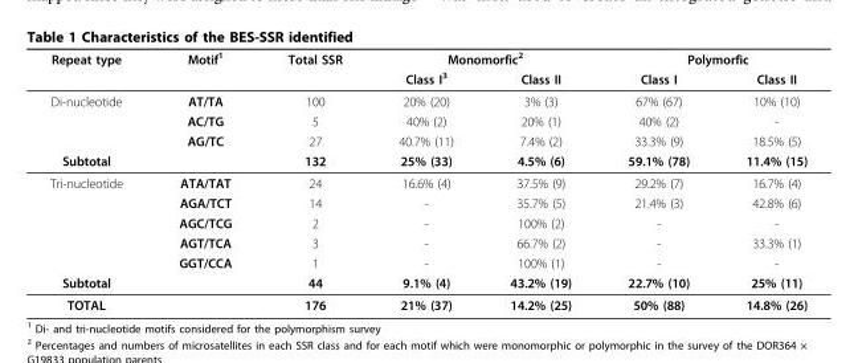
<table><thead><tr><td rowspan="2">Repeat type</td><td rowspan="2">Motif<sup>1</sup></td><td rowspan="2">Total SSR</td><td colspan="2">Monomorfic<sup>2</sup></td><td colspan="2">Polymorfic</td></tr><tr><td>Class I<sup>3</sup></td><td>Class II</td><td>Class I</td><td>Class II</td></tr></thead><tbody><tr><td rowspan="3">Di-nucleotide</td><td>AT/TA</td><td>100</td><td>20% (20)</td><td>3% (3)</td><td>67% (67)</td><td>10% (10)</td></tr><tr><td>AC/TG</td><td>5</td><td>40% (2)</td><td>20% (1)</td><td>40% (2)</td><td>-</td></tr><tr><td>AG/TC</td><td>27</td><td>40.7% (11)</td><td>7.4% (2)</td><td>33.3% (9)</td><td>18.5% (5)</td></tr><tr><td>Subtotal</td><td></td><td>132</td><td>25% (33)</td><td>4.5% (6)</td><td>59.1% (78)</td><td>11.4% (15)</td></tr><tr><td rowspan="5">Tri-nucleotide</td><td>ATA/TAT</td><td>24</td><td>16.6% (4)</td><td>37.5% (9)</td><td>29.2% (7)</td><td>16.7% (4)</td></tr><tr><td>AGA/TCT</td><td>14</td><td>-</td><td>35.7% (5)</td><td>21.4% (3)</td><td>42.8% (6)</td></tr><tr><td>AGC/TCG</td><td>2</td><td>-</td><td>100% (2)</td><td>-</td><td>-</td></tr><tr><td>AGT/TCA</td><td>3</td><td>-</td><td>66.7% (2)</td><td>-</td><td>33.3% (1)</td></tr><tr><td>GGT/CCA</td><td>1</td><td>-</td><td>100% (1)</td><td>-</td><td>-</td></tr><tr><td>Subtotal</td><td></td><td>44</td><td>9.1% (4)</td><td>43.2% (19)</td><td>22.7% (10)</td><td>25% (11)</td></tr><tr><td>TOTAL</td><td></td><td>176</td><td>21% (37)</td><td>14.2% (25)</td><td>50% (88)</td><td>14.8% (26)</td></tr></tbody></table>